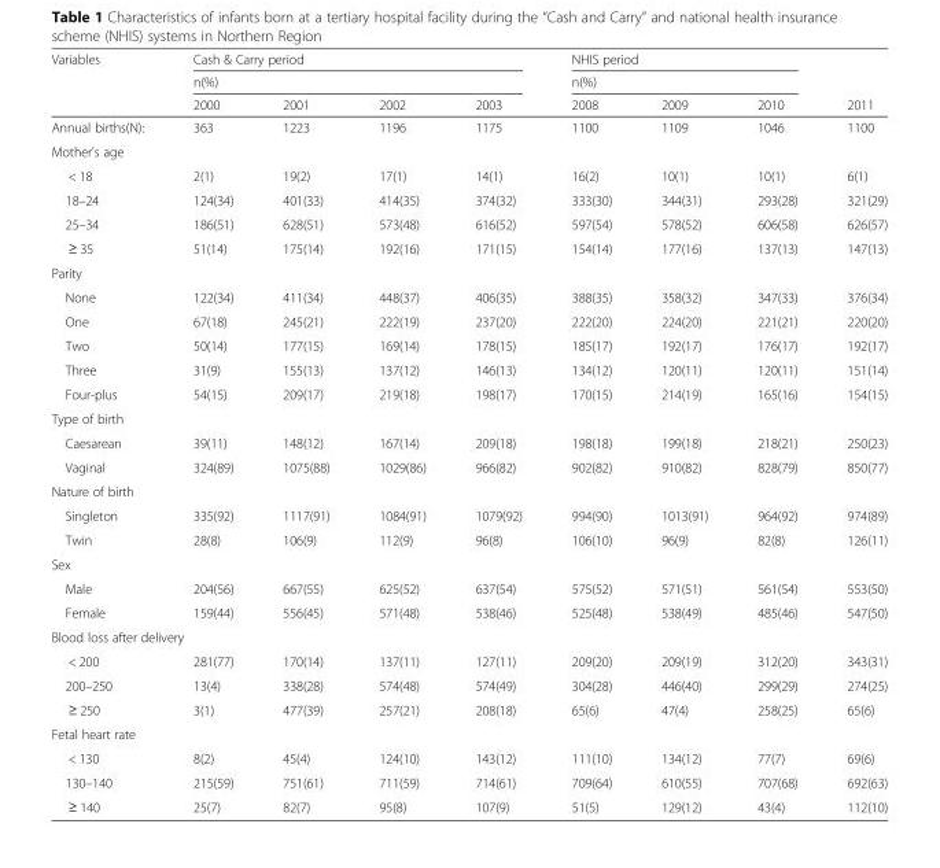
<table><thead><tr><td rowspan="3">Variables</td><td rowspan="2" colspan="4">Cash &amp; Carry period n(%)</td><td rowspan="2" colspan="3">NHIS period n(%)</td><td rowspan="3">2011</td></tr><tr></tr><tr><td>2000</td><td>2001</td><td>2002</td><td>2003</td><td>2008</td><td>2009</td><td>2010</td></tr></thead><tbody><tr><td>Annual births(N):</td><td>363</td><td>1223</td><td>1196</td><td>1175</td><td>1100</td><td>1109</td><td>1046</td><td>1100</td></tr><tr><td colspan="9">Mother&#x27;s age</td></tr><tr><td>&lt; 18</td><td>2(1)</td><td>19(2)</td><td>17(1)</td><td>14(1)</td><td>16(2)</td><td>10(1)</td><td>10(1)</td><td>6(1)</td></tr><tr><td>18–24</td><td>124(34)</td><td>401(33)</td><td>414(35)</td><td>374(32)</td><td>333(30)</td><td>344(31)</td><td>293(28)</td><td>321(29)</td></tr><tr><td>25–34</td><td>186(51)</td><td>628(51)</td><td>573(48)</td><td>616(52)</td><td>597(54)</td><td>578(52)</td><td>606(58)</td><td>626(57)</td></tr><tr><td>≥ 35</td><td>51(14)</td><td>175(14)</td><td>192(16)</td><td>171(15)</td><td>154(14)</td><td>177(16)</td><td>137(13)</td><td>147(13)</td></tr><tr><td colspan="9">Parity</td></tr><tr><td>None</td><td>122(34)</td><td>411(34)</td><td>448(37)</td><td>406(35)</td><td>388(35)</td><td>358(32)</td><td>347(33)</td><td>376(34)</td></tr><tr><td>One</td><td>67(18)</td><td>245(21)</td><td>222(19)</td><td>237(20)</td><td>222(20)</td><td>224(20)</td><td>221(21)</td><td>220(20)</td></tr><tr><td>Two</td><td>50(14)</td><td>177(15)</td><td>169(14)</td><td>178(15)</td><td>185(17)</td><td>192(17)</td><td>176(17)</td><td>192(17)</td></tr><tr><td>Three</td><td>31(9)</td><td>155(13)</td><td>137(12)</td><td>146(13)</td><td>134(12)</td><td>120(11)</td><td>120(11)</td><td>151(14)</td></tr><tr><td>Four-plus</td><td>54(15)</td><td>209(17)</td><td>219(18)</td><td>198(17)</td><td>170(15)</td><td>214(19)</td><td>165(16)</td><td>154(15)</td></tr><tr><td colspan="9">Type of birth</td></tr><tr><td>Caesarean</td><td>39(11)</td><td>148(12)</td><td>167(14)</td><td>209(18)</td><td>198(18)</td><td>199(18)</td><td>218(21)</td><td>250(23)</td></tr><tr><td>Vaginal</td><td>324(89)</td><td>1075(88)</td><td>1029(86)</td><td>966(82)</td><td>902(82)</td><td>910(82)</td><td>828(79)</td><td>850(77)</td></tr><tr><td colspan="9">Nature of birth</td></tr><tr><td>Singleton</td><td>335(92)</td><td>1117(91)</td><td>1084(91)</td><td>1079(92)</td><td>994(90)</td><td>1013(91)</td><td>964(92)</td><td>974(89)</td></tr><tr><td>Twin</td><td>28(8)</td><td>106(9)</td><td>112(9)</td><td>96(8)</td><td>106(10)</td><td>96(9)</td><td>82(8)</td><td>126(11)</td></tr><tr><td colspan="9">Sex</td></tr><tr><td>Male</td><td>204(56)</td><td>667(55)</td><td>625(52)</td><td>637(54)</td><td>575(52)</td><td>571(51)</td><td>561(54)</td><td>553(50)</td></tr><tr><td>Female</td><td>159(44)</td><td>556(45)</td><td>571(48)</td><td>538(46)</td><td>525(48)</td><td>538(49)</td><td>485(46)</td><td>547(50)</td></tr><tr><td colspan="9">Blood loss after delivery</td></tr><tr><td>&lt; 200</td><td>281(77)</td><td>170(14)</td><td>137(11)</td><td>127(11)</td><td>209(20)</td><td>209(19)</td><td>312(20)</td><td>343(31)</td></tr><tr><td>200–250</td><td>13(4)</td><td>338(28)</td><td>574(48)</td><td>574(49)</td><td>304(28)</td><td>446(40)</td><td>299(29)</td><td>274(25)</td></tr><tr><td>≥ 250</td><td>3(1)</td><td>477(39)</td><td>257(21)</td><td>208(18)</td><td>65(6)</td><td>47(4)</td><td>258(25)</td><td>65(6)</td></tr><tr><td colspan="9">Fetal heart rate</td></tr><tr><td>&lt; 130</td><td>8(2)</td><td>45(4)</td><td>124(10)</td><td>143(12)</td><td>111(10)</td><td>134(12)</td><td>77(7)</td><td>69(6)</td></tr><tr><td>130–140</td><td>215(59)</td><td>751(61)</td><td>711(59)</td><td>714(61)</td><td>709(64)</td><td>610(55)</td><td>707(68)</td><td>692(63)</td></tr><tr><td>≥ 140</td><td>25(7)</td><td>82(7)</td><td>95(8)</td><td>107(9)</td><td>51(5)</td><td>129(12)</td><td>43(4)</td><td>112(10)</td></tr></tbody></table>